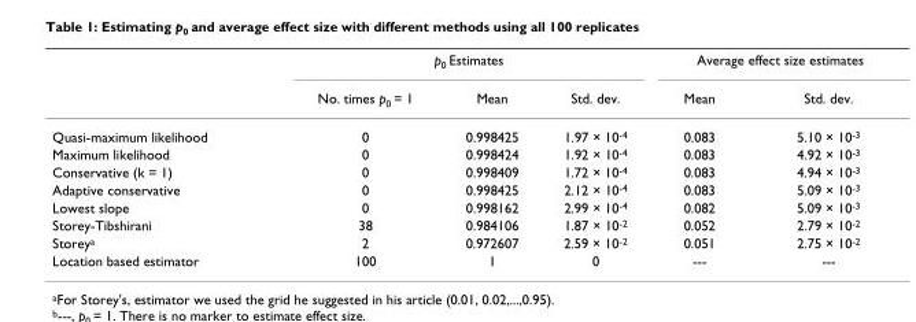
<table><thead><tr><td rowspan="2"></td><td colspan="3">p<sub>0</sub> Estimates</td><td colspan="2">Average effect size estimates</td></tr><tr><td>No. times p<sub>0</sub> = 1</td><td>Mean</td><td>Std. dev.</td><td>Mean</td><td>Std. dev.</td></tr></thead><tbody><tr><td>Quasi-maximum likelihood</td><td>0</td><td>0.998425</td><td>1.97 × 10<sup>-4</sup></td><td>0.083</td><td>5.10 × 10<sup>-3</sup></td></tr><tr><td>Maximum likelihood</td><td>0</td><td>0.998424</td><td>1.92 × 10<sup>-4</sup></td><td>0.083</td><td>4.92 × 10<sup>-3</sup></td></tr><tr><td>Conservative (k = 1)</td><td>0</td><td>0.998409</td><td>1.72 × 10<sup>-4</sup></td><td>0.083</td><td>4.94 × 10<sup>-3</sup></td></tr><tr><td>Adaptive conservative</td><td>0</td><td>0.998425</td><td>2.12 × 10<sup>-4</sup></td><td>0.083</td><td>5.09 × 10<sup>-3</sup></td></tr><tr><td>Lowest slope</td><td>0</td><td>0.998162</td><td>2.99 × 10<sup>-4</sup></td><td>0.082</td><td>5.09 × 10<sup>-3</sup></td></tr><tr><td>Storey-Tibshirani</td><td>38</td><td>0.984106</td><td>1.87 × 10<sup>-2</sup></td><td>0.052</td><td>2.79 × 10<sup>-2</sup></td></tr><tr><td>Storey<sup>a</sup></td><td>2</td><td>0.972607</td><td>2.59 × 10<sup>-2</sup></td><td>0.051</td><td>2.75 × 10<sup>-2</sup></td></tr><tr><td>Location based estimator</td><td>100</td><td>1</td><td>0</td><td>---</td><td>---</td></tr></tbody></table>